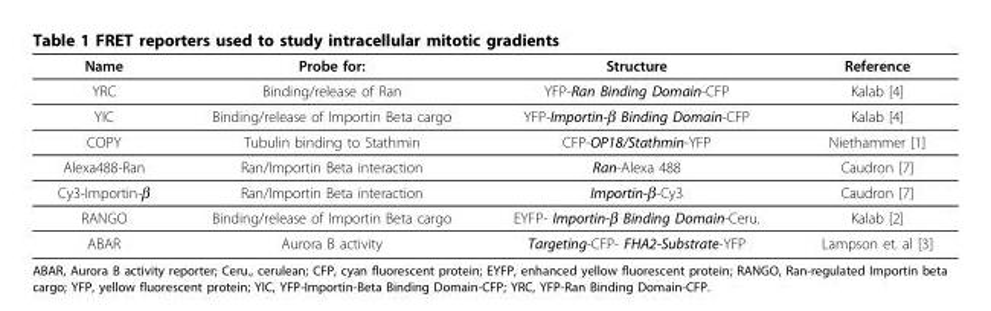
<table><thead><tr><td>Name</td><td>Probe for:</td><td>Structure</td><td>Reference</td></tr></thead><tbody><tr><td>YRC</td><td>Binding/release of Ran</td><td>YFP-Ran Binding Domain-CFP</td><td>Kalab [4]</td></tr><tr><td>YIC</td><td>Binding/release of Importin Beta cargo</td><td>YFP-Importin-β Binding Domain-CFP</td><td>Kalab [4]</td></tr><tr><td>COPY</td><td>Tubulin binding to Stathmin</td><td>CFP-OP18/Stathmin-YFP</td><td>Niethammer [1]</td></tr><tr><td>Alexa488-Ran</td><td>Ran/Importin Beta interaction</td><td>Ran-Alexa 488</td><td>Caudron [7]</td></tr><tr><td>Cy3-Importin-β</td><td>Ran/Importin Beta interaction</td><td>Importin-β-Cy3</td><td>Caudron [7]</td></tr><tr><td>RANGO</td><td>Binding/release of Importin Beta cargo</td><td>EYFP- Importin-β Binding Domain-Ceru.</td><td>Kalab [2]</td></tr><tr><td>ABAR</td><td>Aurora B activity</td><td>Targeting-CFP- FHA2-Substrate-YFP</td><td>Lampson et. al [3]</td></tr></tbody></table>